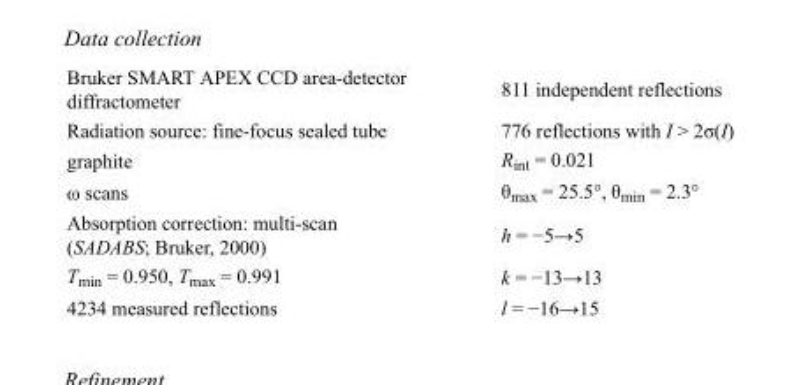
<table><tbody><tr><td>Bruker SMART APEX CCD area-detector diffractometer</td><td>811 independent reflections</td></tr><tr><td>Radiation source: fine-focus sealed tube</td><td>776 reflections with I &gt; 2σ(I)</td></tr><tr><td>graphite</td><td>R<sub>int</sub> = 0.021</td></tr><tr><td>ω scans</td><td>θ<sub>max</sub> = 25.5°, θ<sub>min</sub> = 2.3°</td></tr><tr><td>Absorption correction: multi-scan (SADABS; Bruker, 2000)</td><td>h = −5→5</td></tr><tr><td>T<sub>min</sub> = 0.950, T<sub>max</sub> = 0.991</td><td>k = −13→13</td></tr><tr><td>4234 measured reflections</td><td>l = −16→15</td></tr></tbody></table>